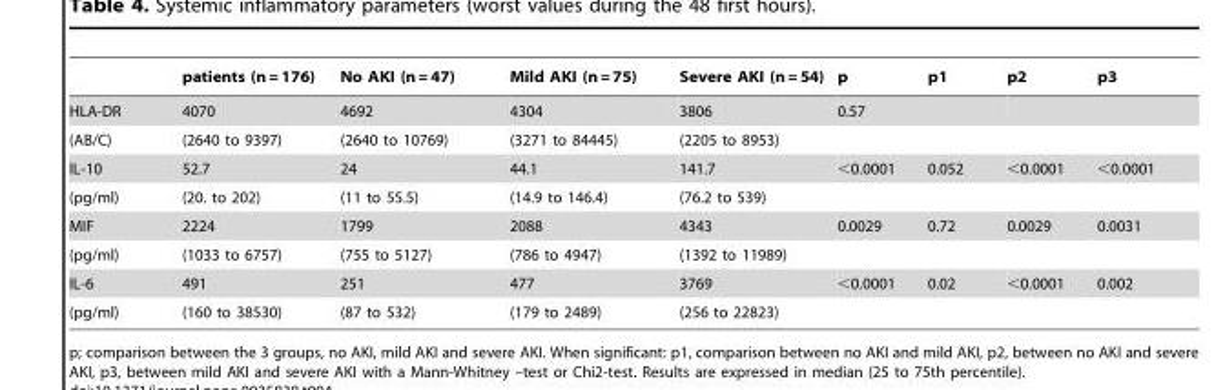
<table><thead><tr><td></td><td>patients (n = 176)</td><td>No AKI (n = 47)</td><td>Mild AKI (n = 75)</td><td>Severe AKI (n = 54)</td><td>p</td><td>p1</td><td>p2</td><td>p3</td></tr></thead><tbody><tr><td>HLA-DR</td><td>4070</td><td>4692</td><td>4304</td><td>3806</td><td>0.57</td><td></td><td></td><td></td></tr><tr><td>(AB/C)</td><td>(2640 to 9397)</td><td>(2640 to 10769)</td><td>(3271 to 84445)</td><td>(2205 to 8953)</td><td></td><td></td><td></td><td></td></tr><tr><td>IL-10</td><td>52.7</td><td>24</td><td>44.1</td><td>141.7</td><td>&lt;0.0001</td><td>0.052</td><td>&lt;0.0001</td><td>&lt;0.0001</td></tr><tr><td>(pg/ml)</td><td>(20. to 202)</td><td>(11 to 55.5)</td><td>(14.9 to 146.4)</td><td>(76.2 to 539)</td><td></td><td></td><td></td><td></td></tr><tr><td>MIF</td><td>2224</td><td>1799</td><td>2088</td><td>4343</td><td>0.0029</td><td>0.72</td><td>0.0029</td><td>0.0031</td></tr><tr><td>(pg/ml)</td><td>(1033 to 6757)</td><td>(755 to 5127)</td><td>(786 to 4947)</td><td>(1392 to 11989)</td><td></td><td></td><td></td><td></td></tr><tr><td>IL-6</td><td>491</td><td>251</td><td>477</td><td>3769</td><td>&lt;0.0001</td><td>0.02</td><td>&lt;0.0001</td><td>0.002</td></tr><tr><td>(pg/ml)</td><td>(160 to 38530)</td><td>(87 to 532)</td><td>(179 to 2489)</td><td>(256 to 22823)</td><td></td><td></td><td></td><td></td></tr></tbody></table>